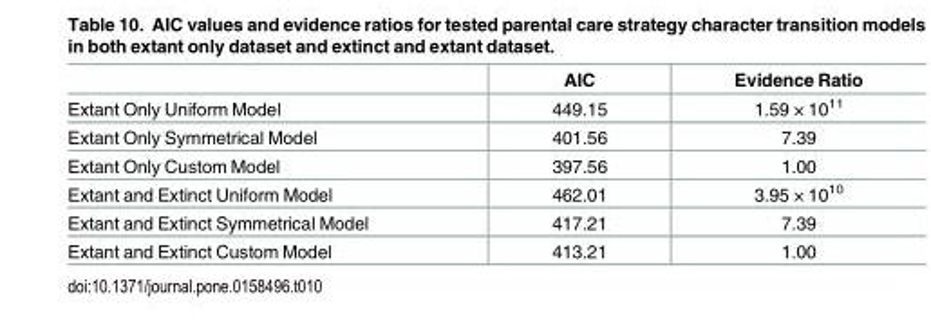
<table><thead><tr><td></td><td>AIC</td><td>Evidence Ratio</td></tr></thead><tbody><tr><td>Extant Only Uniform Model</td><td>449.15</td><td>1.59 × 10<sup>11</sup></td></tr><tr><td>Extant Only Symmetrical Model</td><td>401.56</td><td>7.39</td></tr><tr><td>Extant Only Custom Model</td><td>397.56</td><td>1.00</td></tr><tr><td>Extant and Extinct Uniform Model</td><td>462.01</td><td>3.95 × 10<sup>10</sup></td></tr><tr><td>Extant and Extinct Symmetrical Model</td><td>417.21</td><td>7.39</td></tr><tr><td>Extant and Extinct Custom Model</td><td>413.21</td><td>1.00</td></tr></tbody></table>